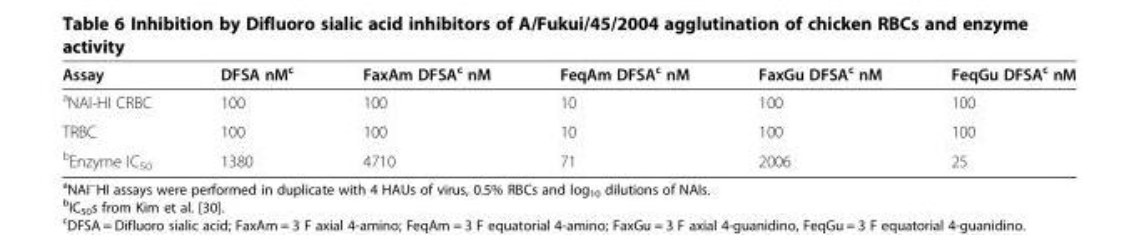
<table><thead><tr><td>Assay</td><td>DFSA nM<sup>c</sup></td><td>FaxAm DFSA<sup>c</sup> nM</td><td>FeqAm DFSA<sup>c</sup> nM</td><td>FaxGu DFSA<sup>c</sup> nM</td><td>FeqGu DFSA<sup>c</sup> nM</td></tr></thead><tbody><tr><td><sup>a</sup>NAI-HI CRBC</td><td>100</td><td>100</td><td>10</td><td>100</td><td>100</td></tr><tr><td>TRBC</td><td>100</td><td>100</td><td>10</td><td>100</td><td>100</td></tr><tr><td><sup>b</sup>Enzyme IC<sub>50</sub></td><td>1380</td><td>4710</td><td>71</td><td>2006</td><td>25</td></tr></tbody></table>